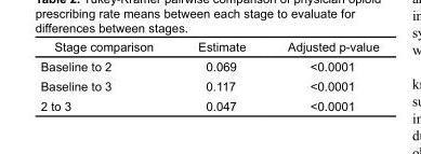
<table><thead><tr><td>Stage comparison</td><td>Estimate</td><td>Adjusted p-value</td></tr></thead><tbody><tr><td>Baseline to 2</td><td>0.069</td><td>&lt;0.0001</td></tr><tr><td>Baseline to 3</td><td>0.117</td><td>&lt;0.0001</td></tr><tr><td>2 to 3</td><td>0.047</td><td>&lt;0.0001</td></tr></tbody></table>